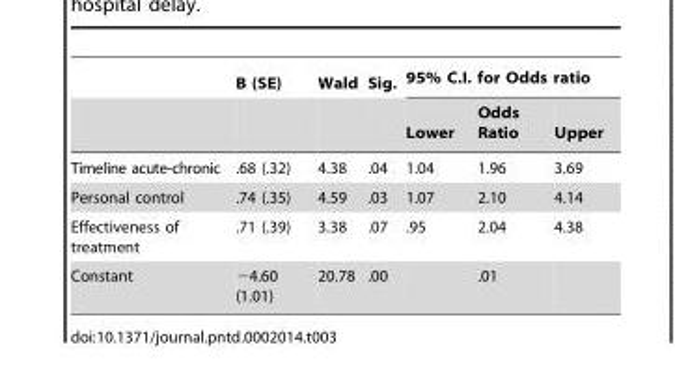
<table><thead><tr><td rowspan="2"></td><td rowspan="2">B (SE)</td><td rowspan="2">Wald</td><td rowspan="2">Sig.</td><td colspan="3">95% C.I. for Odds ratio</td></tr><tr><td>Lower</td><td>Odds Ratio</td><td>Upper</td></tr></thead><tbody><tr><td>Timeline acute-chronic</td><td>.68 (.32)</td><td>4.38</td><td>.04</td><td>1.04</td><td>1.96</td><td>3.69</td></tr><tr><td>Personal control</td><td>.74 (.35)</td><td>4.59</td><td>.03</td><td>1.07</td><td>2.10</td><td>4.14</td></tr><tr><td>Effectiveness of treatment</td><td>.71 (.39)</td><td>3.38</td><td>.07</td><td>.95</td><td>2.04</td><td>4.38</td></tr><tr><td>Constant</td><td>−4.60 (1.01)</td><td>20.78</td><td>.00</td><td></td><td>.01</td><td></td></tr></tbody></table>